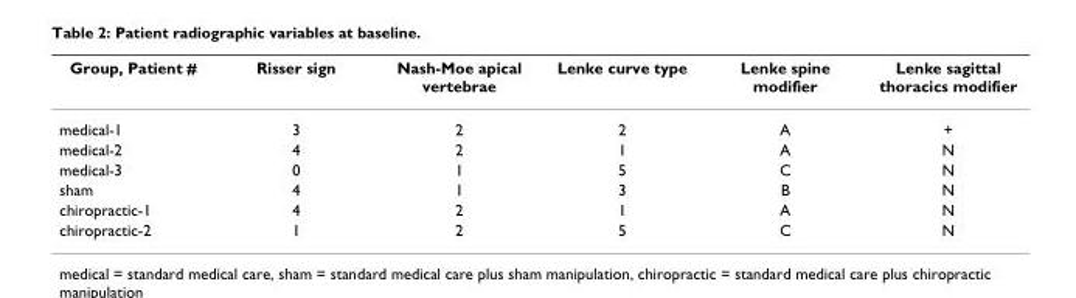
<table><thead><tr><td>Group, Patient #</td><td>Risser sign</td><td>Nash-Moe apical vertebrae</td><td>Lenke curve type</td><td>Lenke spine modifier</td><td>Lenke sagittal thoracics modifier</td></tr></thead><tbody><tr><td>medical-1</td><td>3</td><td>2</td><td>2</td><td>A</td><td>+</td></tr><tr><td>medical-2</td><td>4</td><td>2</td><td>1</td><td>A</td><td>N</td></tr><tr><td>medical-3</td><td>0</td><td>1</td><td>5</td><td>C</td><td>N</td></tr><tr><td>sham</td><td>4</td><td>1</td><td>3</td><td>B</td><td>N</td></tr><tr><td>chiropractic-1</td><td>4</td><td>2</td><td>1</td><td>A</td><td>N</td></tr><tr><td>chiropractic-2</td><td>1</td><td>2</td><td>5</td><td>C</td><td>N</td></tr></tbody></table>